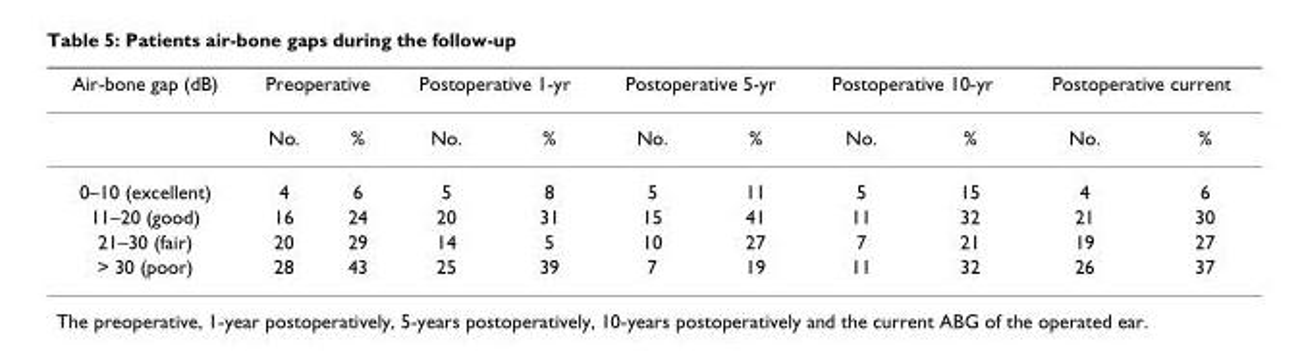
<table><thead><tr><td rowspan="2">Air-bone gap (dB)</td><td colspan="2">Preoperative</td><td colspan="2">Postoperative 1-yr</td><td colspan="2">Postoperative 5-yr</td><td colspan="2">Postoperative 10-yr</td><td colspan="2">Postoperative current</td></tr><tr><td>No.</td><td>%</td><td>No.</td><td>%</td><td>No.</td><td>%</td><td>No.</td><td>%</td><td>No.</td><td>%</td></tr></thead><tbody><tr><td>0–10 (excellent)</td><td>4</td><td>6</td><td>5</td><td>8</td><td>5</td><td>11</td><td>5</td><td>15</td><td>4</td><td>6</td></tr><tr><td>11–20 (good)</td><td>16</td><td>24</td><td>20</td><td>31</td><td>15</td><td>41</td><td>11</td><td>32</td><td>21</td><td>30</td></tr><tr><td>21–30 (fair)</td><td>20</td><td>29</td><td>14</td><td>5</td><td>10</td><td>27</td><td>7</td><td>21</td><td>19</td><td>27</td></tr><tr><td>&gt; 30 (poor)</td><td>28</td><td>43</td><td>25</td><td>39</td><td>7</td><td>19</td><td>11</td><td>32</td><td>26</td><td>37</td></tr></tbody></table>